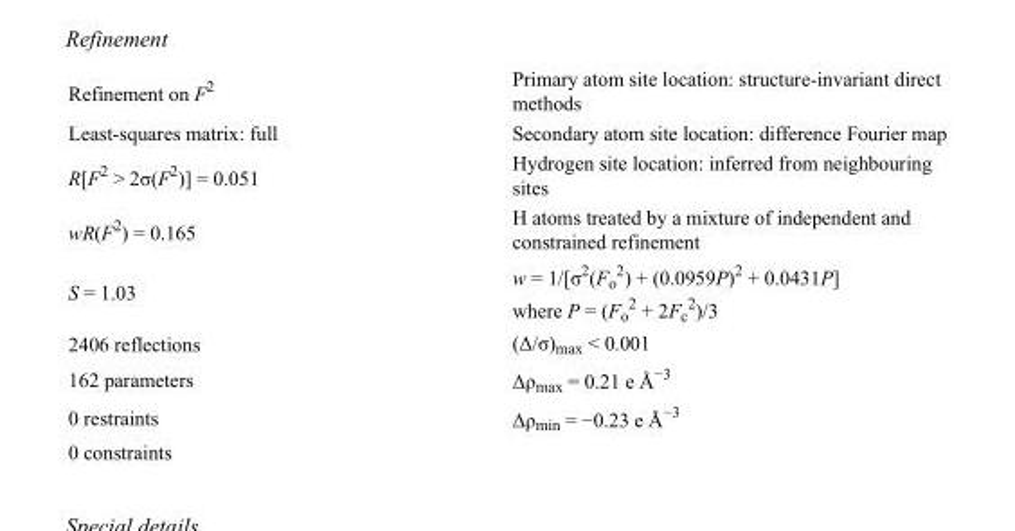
<table><tbody><tr><td>Refinement on F<sup>2</sup></td><td>Primary atom site location: structure-invariant direct methods</td></tr><tr><td>Least-squares matrix: full</td><td>Secondary atom site location: difference Fourier map</td></tr><tr><td>R[F<sup>2</sup> &gt; 2σ(F<sup>2</sup>)] = 0.051</td><td>Hydrogen site location: inferred from neighbouring sites</td></tr><tr><td>wR(F<sup>2</sup>) = 0.165</td><td>H atoms treated by a mixture of independent and constrained refinement</td></tr><tr><td>S = 1.03</td><td>w = 1/[σ<sup>2</sup>(F<sub>o</sub> <sup>2</sup>) + (0.0959P)<sup>2</sup> + 0.0431P] where P = (F<sub>o</sub> <sup>2</sup> + 2F<sub>c</sub> <sup>2</sup>)/3</td></tr><tr><td>2406 reflections</td><td>(Δ/σ)<sub>max</sub> &lt; 0.001</td></tr><tr><td>162 parameters</td><td>Δρ<sub>max</sub> = 0.21 e Å<sup>−3</sup></td></tr><tr><td>0 restraints</td><td>Δρ<sub>min</sub> = −0.23 e Å<sup>−3</sup></td></tr><tr><td>0 constraints</td><td></td></tr></tbody></table>